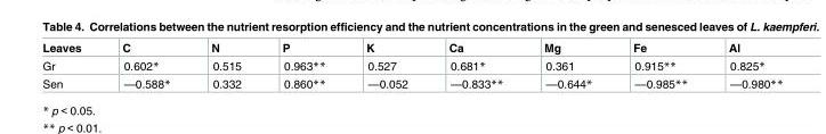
<table><thead><tr><td>Leaves</td><td>C</td><td>N</td><td>P</td><td>K</td><td>Ca</td><td>Mg</td><td>Fe</td><td>Al</td></tr></thead><tbody><tr><td>Gr</td><td>0.602*</td><td>0.515</td><td>0.963**</td><td>0.527</td><td>0.681*</td><td>0.361</td><td>0.915**</td><td>0.825*</td></tr><tr><td>Sen</td><td>—0.588*</td><td>0.332</td><td>0.860**</td><td>—0.052</td><td>—0.833**</td><td>—0.644*</td><td>—0.985**</td><td>—0.980**</td></tr></tbody></table>